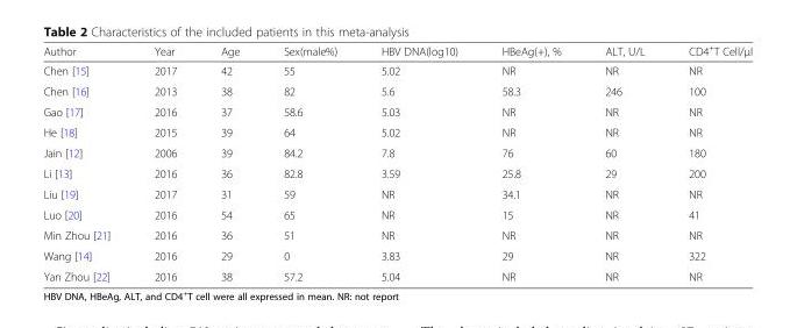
<table><thead><tr><td>Author</td><td>Year</td><td>Age</td><td>Sex(male%)</td><td>HBV DNA(log10)</td><td>HBeAg(+), %</td><td>ALT, U/L</td><td>CD4<sup>+</sup>T Cell/μl</td></tr></thead><tbody><tr><td>Chen [15]</td><td>2017</td><td>42</td><td>55</td><td>5.02</td><td>NR</td><td>NR</td><td>NR</td></tr><tr><td>Chen [16]</td><td>2013</td><td>38</td><td>82</td><td>5.6</td><td>58.3</td><td>246</td><td>100</td></tr><tr><td>Gao [17]</td><td>2016</td><td>37</td><td>58.6</td><td>5.03</td><td>NR</td><td>NR</td><td>NR</td></tr><tr><td>He [18]</td><td>2015</td><td>39</td><td>64</td><td>5.02</td><td>NR</td><td>NR</td><td>NR</td></tr><tr><td>Jain [12]</td><td>2006</td><td>39</td><td>84.2</td><td>7.8</td><td>76</td><td>60</td><td>180</td></tr><tr><td>Li [13]</td><td>2016</td><td>36</td><td>82.8</td><td>3.59</td><td>25.8</td><td>29</td><td>200</td></tr><tr><td>Liu [19]</td><td>2017</td><td>31</td><td>59</td><td>NR</td><td>34.1</td><td>NR</td><td>NR</td></tr><tr><td>Luo [20]</td><td>2016</td><td>54</td><td>65</td><td>NR</td><td>15</td><td>NR</td><td>41</td></tr><tr><td>Min Zhou [21]</td><td>2016</td><td>36</td><td>51</td><td>NR</td><td>NR</td><td>NR</td><td>NR</td></tr><tr><td>Wang [14]</td><td>2016</td><td>29</td><td>0</td><td>3.83</td><td>29</td><td>NR</td><td>322</td></tr><tr><td>Yan Zhou [22]</td><td>2016</td><td>38</td><td>57.2</td><td>5.04</td><td>NR</td><td>NR</td><td>NR</td></tr></tbody></table>